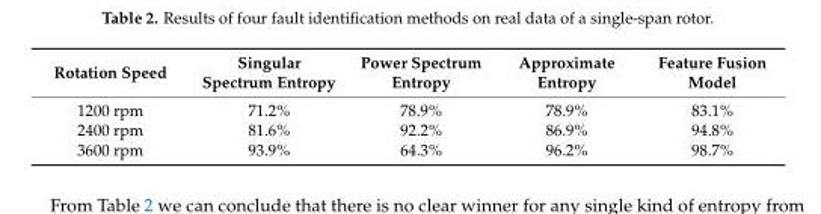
<table><thead><tr><td>Rotation Speed</td><td>Singular Spectrum Entropy</td><td>Power Spectrum Entropy</td><td>Approximate Entropy</td><td>Feature Fusion Model</td></tr></thead><tbody><tr><td>1200 rpm</td><td>71.2%</td><td>78.9%</td><td>78.9%</td><td>83.1%</td></tr><tr><td>2400 rpm</td><td>81.6%</td><td>92.2%</td><td>86.9%</td><td>94.8%</td></tr><tr><td>3600 rpm</td><td>93.9%</td><td>64.3%</td><td>96.2%</td><td>98.7%</td></tr></tbody></table>